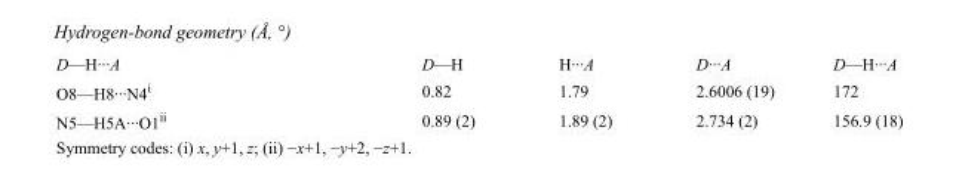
<table><tbody><tr><td>D—H···A</td><td>D—H</td><td>H···A</td><td>D···A</td><td>D—H···A</td></tr><tr><td>O8—H8···N4<sup>i</sup></td><td>0.82</td><td>1.79</td><td>2.6006 (19)</td><td>172</td></tr><tr><td>N5—H5A···O1<sup>ii</sup></td><td>0.89 (2)</td><td>1.89 (2)</td><td>2.734 (2)</td><td>156.9 (18)</td></tr></tbody></table>